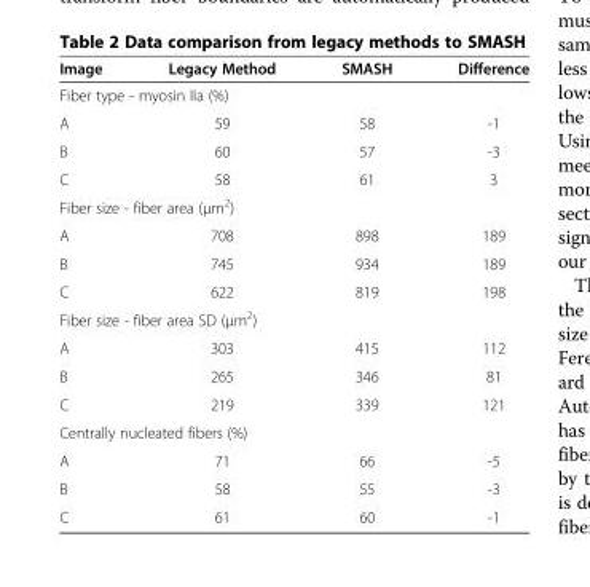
<table><thead><tr><td>Image</td><td>Legacy Method</td><td>SMASH</td><td>Difference</td></tr></thead><tbody><tr><td colspan="4">Fiber type - myosin IIa (%)</td></tr><tr><td>A</td><td>59</td><td>58</td><td>-1</td></tr><tr><td>B</td><td>60</td><td>57</td><td>-3</td></tr><tr><td>C</td><td>58</td><td>61</td><td>3</td></tr><tr><td colspan="4">Fiber size - fiber area (μm<sup>2</sup>)</td></tr><tr><td>A</td><td>708</td><td>898</td><td>189</td></tr><tr><td>B</td><td>745</td><td>934</td><td>189</td></tr><tr><td>C</td><td>622</td><td>819</td><td>198</td></tr><tr><td colspan="4">Fiber size - fiber area SD (μm<sup>2</sup>)</td></tr><tr><td>A</td><td>303</td><td>415</td><td>112</td></tr><tr><td>B</td><td>265</td><td>346</td><td>81</td></tr><tr><td>C</td><td>219</td><td>339</td><td>121</td></tr><tr><td colspan="4">Centrally nucleated fibers (%)</td></tr><tr><td>A</td><td>71</td><td>66</td><td>-5</td></tr><tr><td>B</td><td>58</td><td>55</td><td>-3</td></tr><tr><td>C</td><td>61</td><td>60</td><td>-1</td></tr></tbody></table>